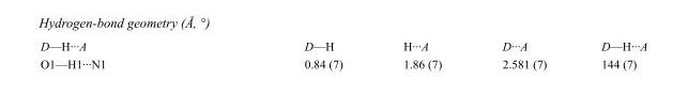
<table><tbody><tr><td>D—H···A</td><td>D—H</td><td>H···A</td><td>D···A</td><td>D—H···A</td></tr><tr><td>O1—H1···N1</td><td>0.84 (7)</td><td>1.86 (7)</td><td>2.581 (7)</td><td>144 (7)</td></tr></tbody></table>